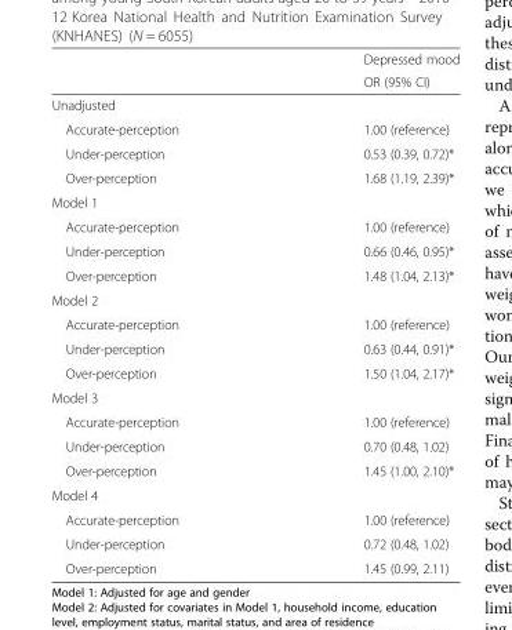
<table><thead><tr><td rowspan="2"></td><td rowspan="2">Depressed mood OR (95% CI)</td></tr><tr></tr></thead><tbody><tr><td colspan="2">Unadjusted</td></tr><tr><td>Accurate-perception</td><td>1.00 (reference)</td></tr><tr><td>Under-perception</td><td>0.53 (0.39, 0.72)*</td></tr><tr><td>Over-perception</td><td>1.68 (1.19, 2.39)*</td></tr><tr><td colspan="2">Model 1</td></tr><tr><td>Accurate-perception</td><td>1.00 (reference)</td></tr><tr><td>Under-perception</td><td>0.66 (0.46, 0.95)*</td></tr><tr><td>Over-perception</td><td>1.48 (1.04, 2.13)*</td></tr><tr><td colspan="2">Model 2</td></tr><tr><td>Accurate-perception</td><td>1.00 (reference)</td></tr><tr><td>Under-perception</td><td>0.63 (0.44, 0.91)*</td></tr><tr><td>Over-perception</td><td>1.50 (1.04, 2.17)*</td></tr><tr><td colspan="2">Model 3</td></tr><tr><td>Accurate-perception</td><td>1.00 (reference)</td></tr><tr><td>Under-perception</td><td>0.70 (0.48, 1.02)</td></tr><tr><td>Over-perception</td><td>1.45 (1.00, 2.10)*</td></tr><tr><td colspan="2">Model 4</td></tr><tr><td>Accurate-perception</td><td>1.00 (reference)</td></tr><tr><td>Under-perception</td><td>0.72 (0.48, 1.02)</td></tr><tr><td>Over-perception</td><td>1.45 (0.99, 2.11)</td></tr></tbody></table>